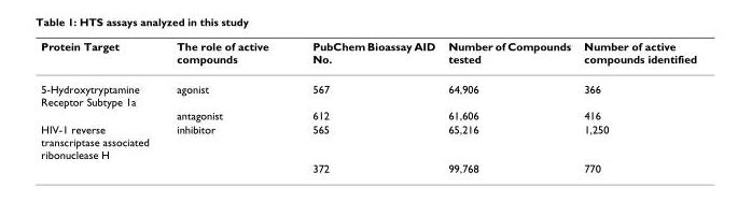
<table><thead><tr><td>Protein Target</td><td>The role of active compounds</td><td>PubChem Bioassay AID No.</td><td>Number of Compounds tested</td><td>Number of active compounds identified</td></tr></thead><tbody><tr><td rowspan="2">5-Hydroxytryptamine Receptor Subtype 1a</td><td>agonist</td><td>567</td><td>64,906</td><td>366</td></tr><tr><td>antagonist</td><td>612</td><td>61,606</td><td>416</td></tr><tr><td rowspan="2">HIV-1 reverse transcriptase associated ribonuclease H</td><td>inhibitor</td><td>565</td><td>65,216</td><td>1,250</td></tr><tr><td></td><td>372</td><td>99,768</td><td>770</td></tr></tbody></table>